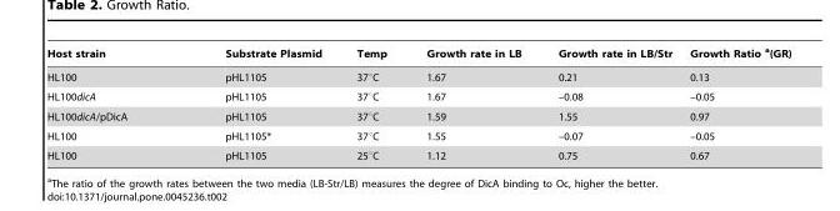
<table><thead><tr><td>Host strain</td><td>Substrate Plasmid</td><td>Temp</td><td>Growth rate in LB</td><td>Growth rate in LB/Str</td><td>Growth Ratio a(GR)</td></tr></thead><tbody><tr><td>HL100</td><td>pHL1105</td><td>37°C</td><td>1.67</td><td>0.21</td><td>0.13</td></tr><tr><td>HL100dicA</td><td>pHL1105</td><td>37°C</td><td>1.67</td><td>–0.08</td><td>–0.05</td></tr><tr><td>HL100dicA/pDicA</td><td>pHL1105</td><td>37°C</td><td>1.59</td><td>1.55</td><td>0.97</td></tr><tr><td>HL100</td><td>pHL1105*</td><td>37°C</td><td>1.55</td><td>–0.07</td><td>–0.05</td></tr><tr><td>HL100</td><td>pHL1105</td><td>25°C</td><td>1.12</td><td>0.75</td><td>0.67</td></tr></tbody></table>